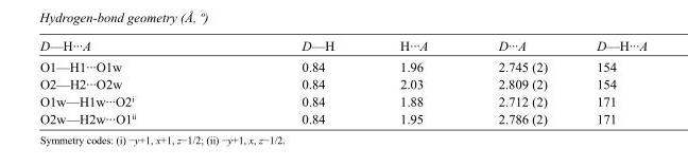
<table><tbody><tr><td>D—H···A</td><td>D—H</td><td>H···A</td><td>D···A</td><td>D—H···A</td></tr><tr><td>O1—H1···O1w</td><td>0.84</td><td>1.96</td><td>2.745 (2)</td><td>154</td></tr><tr><td>O2—H2···O2w</td><td>0.84</td><td>2.03</td><td>2.809 (2)</td><td>154</td></tr><tr><td>O1w—H1w···O2<sup>i</sup></td><td>0.84</td><td>1.88</td><td>2.712 (2)</td><td>171</td></tr><tr><td>O2w—H2w···O1<sup>ii</sup></td><td>0.84</td><td>1.95</td><td>2.786 (2)</td><td>171</td></tr></tbody></table>